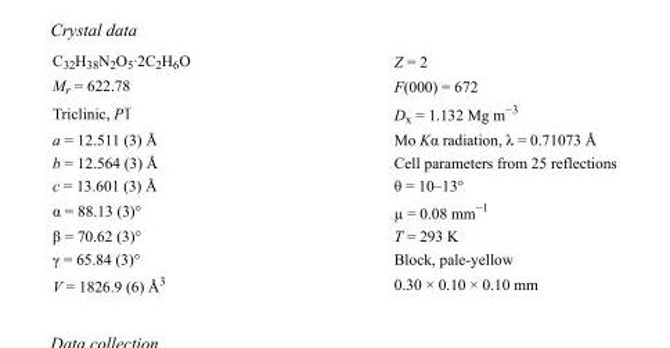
<table><tbody><tr><td>C<sub>32</sub>H<sub>38</sub>N<sub>2</sub>O<sub>5</sub>·2C<sub>2</sub>H<sub>6</sub>O</td><td>Z = 2</td></tr><tr><td>M<sub>r</sub> = 622.78</td><td>F(000) = 672</td></tr><tr><td>Triclinic, P1</td><td>D<sub>x</sub> = 1.132 Mg m<sup>−3</sup></td></tr><tr><td>a = 12.511 (3) Å</td><td>Mo Kα radiation, λ = 0.71073 Å</td></tr><tr><td>b = 12.564 (3) Å</td><td>Cell parameters from 25 reflections</td></tr><tr><td>c = 13.601 (3) Å</td><td>θ = 10–13°</td></tr><tr><td>α = 88.13 (3)°</td><td>µ = 0.08 mm<sup>−1</sup></td></tr><tr><td>β = 70.62 (3)°</td><td>T = 293 K</td></tr><tr><td>γ = 65.84 (3)°</td><td>Block, pale-yellow</td></tr><tr><td>V = 1826.9 (6) Å<sup>3</sup></td><td>0.30 × 0.10 × 0.10 mm</td></tr></tbody></table>